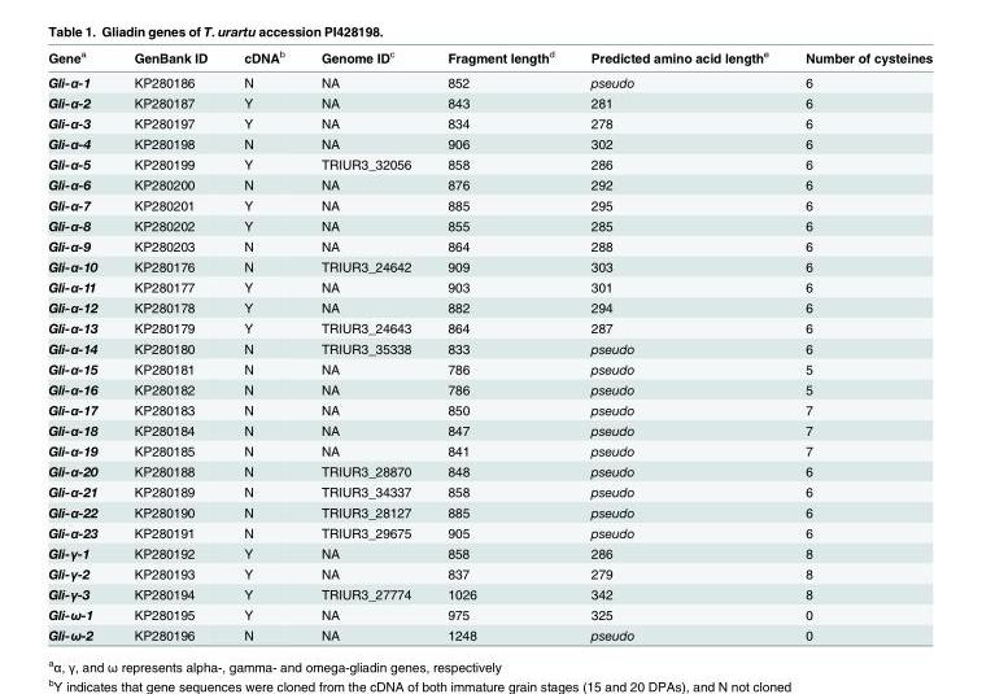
<table><thead><tr><td>Gene<sup>a</sup></td><td>GenBank ID</td><td>cDNA<sup>b</sup></td><td>Genome ID<sup>c</sup></td><td>Fragment length<sup>d</sup></td><td>Predicted amino acid length<sup>e</sup></td><td>Number of cysteines</td></tr></thead><tbody><tr><td>Gli-α-1</td><td>KP280186</td><td>N</td><td>NA</td><td>852</td><td>pseudo</td><td>6</td></tr><tr><td>Gli-α-2</td><td>KP280187</td><td>Y</td><td>NA</td><td>843</td><td>281</td><td>6</td></tr><tr><td>Gli-α-3</td><td>KP280197</td><td>Y</td><td>NA</td><td>834</td><td>278</td><td>6</td></tr><tr><td>Gli-α-4</td><td>KP280198</td><td>N</td><td>NA</td><td>906</td><td>302</td><td>6</td></tr><tr><td>Gli-α-5</td><td>KP280199</td><td>Y</td><td>TRIUR3_32056</td><td>858</td><td>286</td><td>6</td></tr><tr><td>Gli-α-6</td><td>KP280200</td><td>N</td><td>NA</td><td>876</td><td>292</td><td>6</td></tr><tr><td>Gli-α-7</td><td>KP280201</td><td>Y</td><td>NA</td><td>885</td><td>295</td><td>6</td></tr><tr><td>Gli-α-8</td><td>KP280202</td><td>Y</td><td>NA</td><td>855</td><td>285</td><td>6</td></tr><tr><td>Gli-α-9</td><td>KP280203</td><td>N</td><td>NA</td><td>864</td><td>288</td><td>6</td></tr><tr><td>Gli-α-10</td><td>KP280176</td><td>N</td><td>TRIUR3_24642</td><td>909</td><td>303</td><td>6</td></tr><tr><td>Gli-α-11</td><td>KP280177</td><td>Y</td><td>NA</td><td>903</td><td>301</td><td>6</td></tr><tr><td>Gli-α-12</td><td>KP280178</td><td>Y</td><td>NA</td><td>882</td><td>294</td><td>6</td></tr><tr><td>Gli-α-13</td><td>KP280179</td><td>Y</td><td>TRIUR3_24643</td><td>864</td><td>287</td><td>6</td></tr><tr><td>Gli-α-14</td><td>KP280180</td><td>N</td><td>TRIUR3_35338</td><td>833</td><td>pseudo</td><td>6</td></tr><tr><td>Gli-α-15</td><td>KP280181</td><td>N</td><td>NA</td><td>786</td><td>pseudo</td><td>5</td></tr><tr><td>Gli-α-16</td><td>KP280182</td><td>N</td><td>NA</td><td>786</td><td>pseudo</td><td>5</td></tr><tr><td>Gli-α-17</td><td>KP280183</td><td>N</td><td>NA</td><td>850</td><td>pseudo</td><td>7</td></tr><tr><td>Gli-α-18</td><td>KP280184</td><td>N</td><td>NA</td><td>847</td><td>pseudo</td><td>7</td></tr><tr><td>Gli-α-19</td><td>KP280185</td><td>N</td><td>NA</td><td>841</td><td>pseudo</td><td>7</td></tr><tr><td>Gli-α-20</td><td>KP280188</td><td>N</td><td>TRIUR3_28870</td><td>848</td><td>pseudo</td><td>6</td></tr><tr><td>Gli-α-21</td><td>KP280189</td><td>N</td><td>TRIUR3_34337</td><td>858</td><td>pseudo</td><td>6</td></tr><tr><td>Gli-α-22</td><td>KP280190</td><td>N</td><td>TRIUR3_28127</td><td>885</td><td>pseudo</td><td>6</td></tr><tr><td>Gli-α-23</td><td>KP280191</td><td>N</td><td>TRIUR3_29675</td><td>905</td><td>pseudo</td><td>6</td></tr><tr><td>Gli-γ-1</td><td>KP280192</td><td>Y</td><td>NA</td><td>858</td><td>286</td><td>8</td></tr><tr><td>Gli-γ-2</td><td>KP280193</td><td>Y</td><td>NA</td><td>837</td><td>279</td><td>8</td></tr><tr><td>Gli-γ-3</td><td>KP280194</td><td>Y</td><td>TRIUR3_27774</td><td>1026</td><td>342</td><td>8</td></tr><tr><td>Gli-ω-1</td><td>KP280195</td><td>Y</td><td>NA</td><td>975</td><td>325</td><td>0</td></tr><tr><td>Gli-ω-2</td><td>KP280196</td><td>N</td><td>NA</td><td>1248</td><td>pseudo</td><td>0</td></tr></tbody></table>